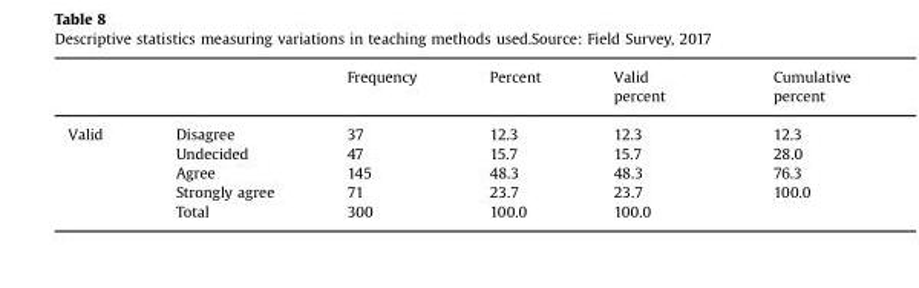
<table><thead><tr><td></td><td></td><td>Frequency</td><td>Percent</td><td>Valid percent</td><td>Cumulative percent</td></tr></thead><tbody><tr><td rowspan="5">Valid</td><td>Disagree</td><td>37</td><td>12.3</td><td>12.3</td><td>12.3</td></tr><tr><td>Undecided</td><td>47</td><td>15.7</td><td>15.7</td><td>28.0</td></tr><tr><td>Agree</td><td>145</td><td>48.3</td><td>48.3</td><td>76.3</td></tr><tr><td>Strongly agree</td><td>71</td><td>23.7</td><td>23.7</td><td>100.0</td></tr><tr><td>Total</td><td>300</td><td>100.0</td><td>100.0</td><td></td></tr></tbody></table>